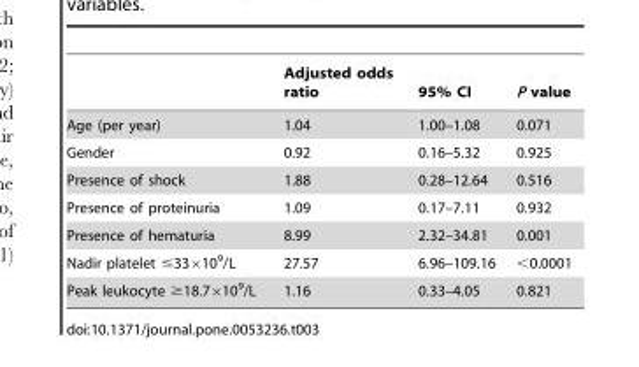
<table><thead><tr><td></td><td>Adjusted odds ratio</td><td>95% CI</td><td>P value</td></tr></thead><tbody><tr><td>Age (per year)</td><td>1.04</td><td>1.00–1.08</td><td>0.071</td></tr><tr><td>Gender</td><td>0.92</td><td>0.16–5.32</td><td>0.925</td></tr><tr><td>Presence of shock</td><td>1.88</td><td>0.28–12.64</td><td>0.516</td></tr><tr><td>Presence of proteinuria</td><td>1.09</td><td>0.17–7.11</td><td>0.932</td></tr><tr><td>Presence of hematuria</td><td>8.99</td><td>2.32–34.81</td><td>0.001</td></tr><tr><td>Nadir platelet ≤33×10<sup>9</sup>/L</td><td>27.57</td><td>6.96–109.16</td><td>&lt;0.0001</td></tr><tr><td>Peak leukocyte ≥18.7×10<sup>9</sup>/L</td><td>1.16</td><td>0.33–4.05</td><td>0.821</td></tr></tbody></table>